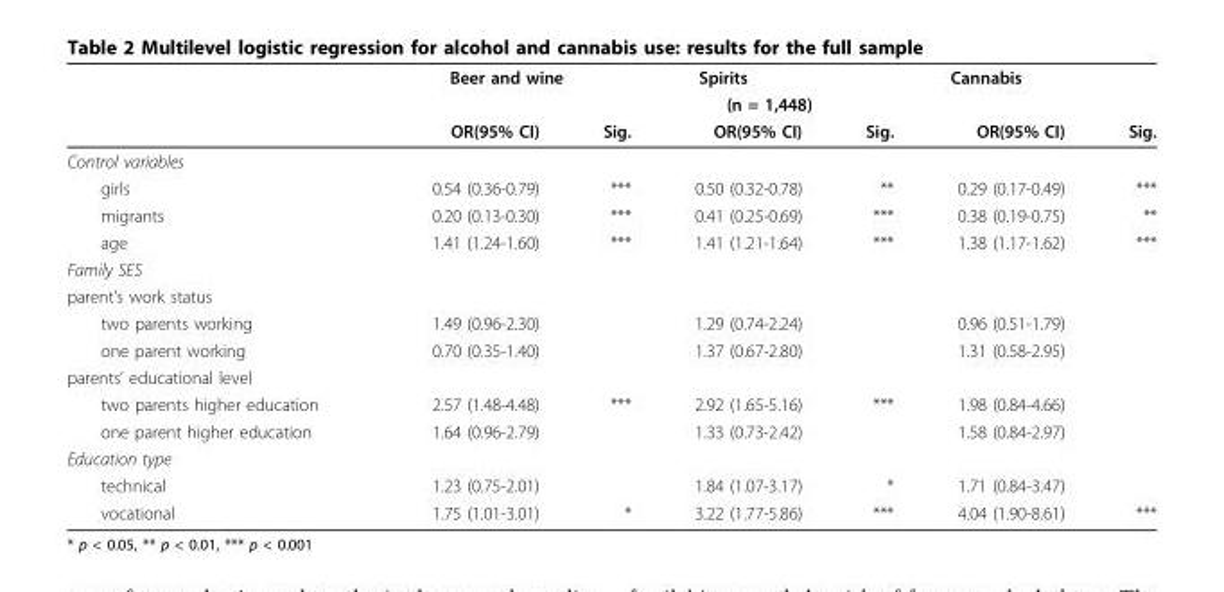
<table><thead><tr><td rowspan="3"></td><td colspan="2">Beer and wine</td><td>Spirits</td><td></td><td>Cannabis</td><td></td></tr><tr><td colspan="6">(n = 1,448)</td></tr><tr><td>OR(95% CI)</td><td>Sig.</td><td>OR(95% CI)</td><td>Sig.</td><td>OR(95% CI)</td><td>Sig.</td></tr></thead><tbody><tr><td colspan="7">Control variables</td></tr><tr><td>girls</td><td>0.54 (0.36-0.79)</td><td>***</td><td>0.50 (0.32-0.78)</td><td>**</td><td>0.29 (0.17-0.49)</td><td>***</td></tr><tr><td>migrants</td><td>0.20 (0.13-0.30)</td><td>***</td><td>0.41 (0.25-0.69)</td><td>***</td><td>0.38 (0.19-0.75)</td><td>**</td></tr><tr><td>age</td><td>1.41 (1.24-1.60)</td><td>***</td><td>1.41 (1.21-1.64)</td><td>***</td><td>1.38 (1.17-1.62)</td><td>***</td></tr><tr><td colspan="7">Family SES</td></tr><tr><td colspan="7">parent’s work status</td></tr><tr><td>two parents working</td><td>1.49 (0.96-2.30)</td><td></td><td>1.29 (0.74-2.24)</td><td></td><td>0.96 (0.51-1.79)</td><td></td></tr><tr><td>one parent working</td><td>0.70 (0.35-1.40)</td><td></td><td>1.37 (0.67-2.80)</td><td></td><td>1.31 (0.58-2.95)</td><td></td></tr><tr><td colspan="7">parents’ educational level</td></tr><tr><td>two parents higher education</td><td>2.57 (1.48-4.48)</td><td>***</td><td>2.92 (1.65-5.16)</td><td>***</td><td>1.98 (0.84-4.66)</td><td></td></tr><tr><td>one parent higher education</td><td>1.64 (0.96-2.79)</td><td></td><td>1.33 (0.73-2.42)</td><td></td><td>1.58 (0.84-2.97)</td><td></td></tr><tr><td colspan="7">Education type</td></tr><tr><td>technical</td><td>1.23 (0.75-2.01)</td><td></td><td>1.84 (1.07-3.17)</td><td>*</td><td>1.71 (0.84-3.47)</td><td></td></tr><tr><td>vocational</td><td>1.75 (1.01-3.01)</td><td>*</td><td>3.22 (1.77-5.86)</td><td>***</td><td>4.04 (1.90-8.61)</td><td>***</td></tr></tbody></table>